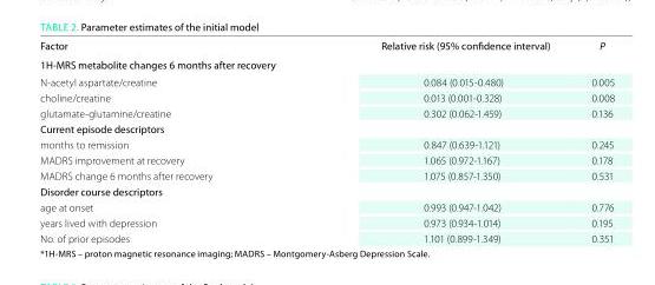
<table><thead><tr><td>Factor</td><td>Relative risk (95% confidence interval)</td><td>P</td></tr></thead><tbody><tr><td colspan="3">1H-MRS metabolite changes 6 months after recovery</td></tr><tr><td>N-acetyl aspartate/creatine</td><td>0.084 (0.015-0.480)</td><td>0.005</td></tr><tr><td>choline/creatine</td><td>0.013 (0.001-0.328)</td><td>0.008</td></tr><tr><td>glutamate-glutamine/creatine</td><td>0.302 (0.062-1.459)</td><td>0.136</td></tr><tr><td colspan="3">Current episode descriptors</td></tr><tr><td>months to remission</td><td>0.847 (0.639-1.121)</td><td>0.245</td></tr><tr><td>MADRS improvement at recovery</td><td>1.065 (0.972-1.167)</td><td>0.178</td></tr><tr><td>MADRS change 6 months after recovery</td><td>1.075 (0.857-1.350)</td><td>0.531</td></tr><tr><td colspan="3">Disorder course descriptors</td></tr><tr><td>age at onset</td><td>0.993 (0.947-1.042)</td><td>0.776</td></tr><tr><td>years lived with depression</td><td>0.973 (0.934-1.014)</td><td>0.195</td></tr><tr><td>No. of prior episodes</td><td>1.101 (0.899-1.349)</td><td>0.351</td></tr></tbody></table>